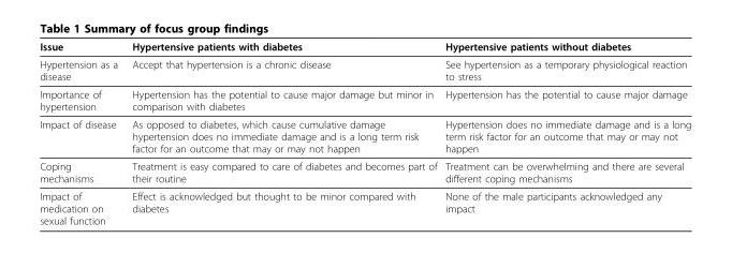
<table><thead><tr><td>Issue</td><td>Hypertensive patients with diabetes</td><td>Hypertensive patients without diabetes</td></tr></thead><tbody><tr><td>Hypertension as a disease</td><td>Accept that hypertension is a chronic disease</td><td>See hypertension as a temporary physiological reaction to stress</td></tr><tr><td>Importance of hypertension</td><td>Hypertension has the potential to cause major damage but minor in comparison with diabetes</td><td>Hypertension has the potential to cause major damage</td></tr><tr><td>Impact of disease</td><td>As opposed to diabetes, which cause cumulative damage hypertension does no immediate damage and is a long term risk factor for an outcome that may or may not happen</td><td>Hypertension does no immediate damage and is a long term risk factor for an outcome that may or may not happen</td></tr><tr><td>Coping mechanisms</td><td>Treatment is easy compared to care of diabetes and becomes part of their routine</td><td>Treatment can be overwhelming and there are several different coping mechanisms</td></tr><tr><td>Impact of medication on sexual function</td><td>Effect is acknowledged but thought to be minor compared with diabetes</td><td>None of the male participants acknowledged any impact</td></tr></tbody></table>